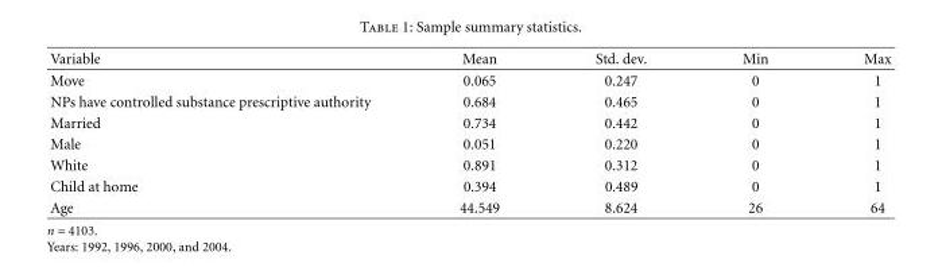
<table><thead><tr><td>Variable</td><td>Mean</td><td>Std. dev.</td><td>Min</td><td>Max</td></tr></thead><tbody><tr><td>Move</td><td>0.065</td><td>0.247</td><td>0</td><td>1</td></tr><tr><td>NPs have controlled substance prescriptive authority</td><td>0.684</td><td>0.465</td><td>0</td><td>1</td></tr><tr><td>Married</td><td>0.734</td><td>0.442</td><td>0</td><td>1</td></tr><tr><td>Male</td><td>0.051</td><td>0.220</td><td>0</td><td>1</td></tr><tr><td>White</td><td>0.891</td><td>0.312</td><td>0</td><td>1</td></tr><tr><td>Child at home</td><td>0.394</td><td>0.489</td><td>0</td><td>1</td></tr><tr><td>Age</td><td>44.549</td><td>8.624</td><td>26</td><td>64</td></tr></tbody></table>